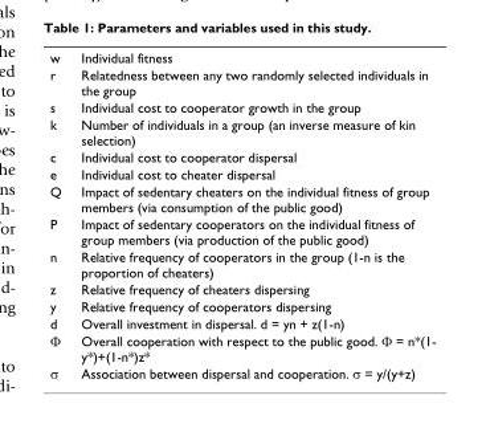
<table><tbody><tr><td>w</td><td>Individual fitness</td></tr><tr><td>r</td><td>Relatedness between any two randomly selected individuals in the group</td></tr><tr><td>s</td><td>Individual cost to cooperator growth in the group</td></tr><tr><td>k</td><td>Number of individuals in a group (an inverse measure of kin selection)</td></tr><tr><td>c</td><td>Individual cost to cooperator dispersal</td></tr><tr><td>e</td><td>Individual cost to cheater dispersal</td></tr><tr><td>Q</td><td>Impact of sedentary cheaters on the individual fitness of group members (via consumption of the public good)</td></tr><tr><td>P</td><td>Impact of sedentary cooperators on the individual fitness of group members (via production of the public good)</td></tr><tr><td>n</td><td>Relative frequency of cooperators in the group (1-n is the proportion of cheaters)</td></tr><tr><td>z</td><td>Relative frequency of cheaters dispersing</td></tr><tr><td>y</td><td>Relative frequency of cooperators dispersing</td></tr><tr><td>d</td><td>Overall investment in dispersal. d = yn + z(1-n)</td></tr><tr><td>Φ</td><td>Overall cooperation with respect to the public good. Φ = n*(1- y*)+(1-n*)z*</td></tr><tr><td>σ</td><td>Association between dispersal and cooperation. σ = y/(y+z)</td></tr></tbody></table>